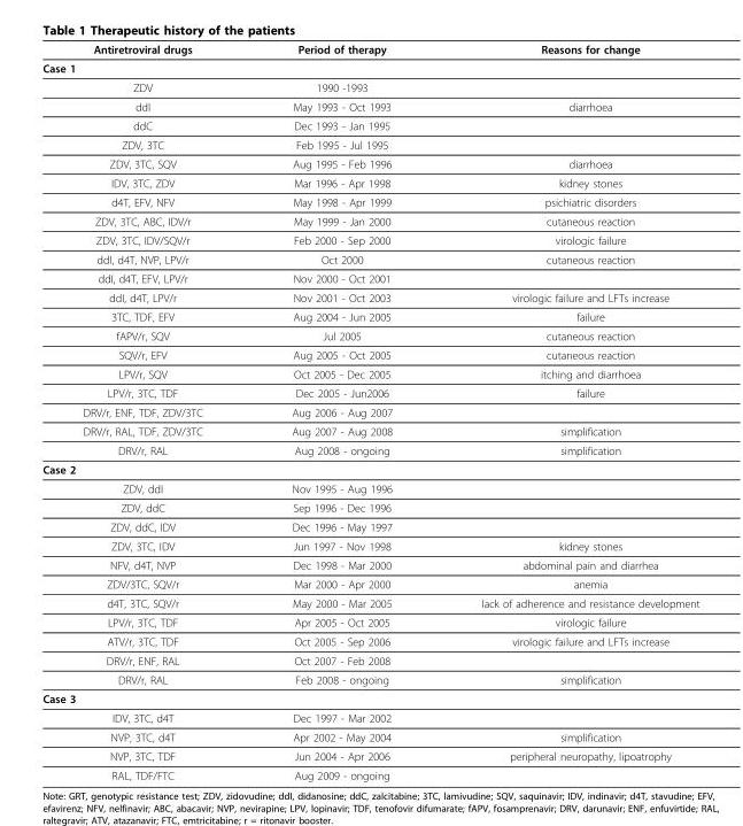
<table><thead><tr><td>Antiretroviral drugs</td><td>Period of therapy</td><td>Reasons for change</td></tr></thead><tbody><tr><td colspan="3">Case 1</td></tr><tr><td>ZDV</td><td>1990 -1993</td><td></td></tr><tr><td>ddI</td><td>May 1993 - Oct 1993</td><td>diarrhoea</td></tr><tr><td>ddC</td><td>Dec 1993 - Jan 1995</td><td></td></tr><tr><td>ZDV, 3TC</td><td>Feb 1995 - Jul 1995</td><td></td></tr><tr><td>ZDV, 3TC, SQV</td><td>Aug 1995 - Feb 1996</td><td>diarrhoea</td></tr><tr><td>IDV, 3TC, ZDV</td><td>Mar 1996 - Apr 1998</td><td>kidney stones</td></tr><tr><td>d4T, EFV, NFV</td><td>May 1998 - Apr 1999</td><td>psichiatric disorders</td></tr><tr><td>ZDV, 3TC, ABC, IDV/r</td><td>May 1999 - Jan 2000</td><td>cutaneous reaction</td></tr><tr><td>ZDV, 3TC, IDV/SQV/r</td><td>Feb 2000 - Sep 2000</td><td>virologic failure</td></tr><tr><td>ddI, d4T, NVP, LPV/r</td><td>Oct 2000</td><td>cutaneous reaction</td></tr><tr><td>ddI, d4T, EFV, LPV/r</td><td>Nov 2000 - Oct 2001</td><td></td></tr><tr><td>ddI, d4T, LPV/r</td><td>Nov 2001 - Oct 2003</td><td>virologic failure and LFTs increase</td></tr><tr><td>3TC, TDF, EFV</td><td>Aug 2004 - Jun 2005</td><td>failure</td></tr><tr><td>fAPV/r, SQV</td><td>Jul 2005</td><td>cutaneous reaction</td></tr><tr><td>SQV/r, EFV</td><td>Aug 2005 - Oct 2005</td><td>cutaneous reaction</td></tr><tr><td>LPV/r, SQV</td><td>Oct 2005 - Dec 2005</td><td>itching and diarrhoea</td></tr><tr><td>LPV/r, 3TC, TDF</td><td>Dec 2005 - Jun2006</td><td>failure</td></tr><tr><td>DRV/r, ENF, TDF, ZDV/3TC</td><td>Aug 2006 - Aug 2007</td><td></td></tr><tr><td>DRV/r, RAL, TDF, ZDV/3TC</td><td>Aug 2007 - Aug 2008</td><td>simplification</td></tr><tr><td>DRV/r, RAL</td><td>Aug 2008 - ongoing</td><td>simplification</td></tr><tr><td colspan="3">Case 2</td></tr><tr><td>ZDV, ddI</td><td>Nov 1995 - Aug 1996</td><td></td></tr><tr><td>ZDV, ddC</td><td>Sep 1996 - Dec 1996</td><td></td></tr><tr><td>ZDV, ddC, IDV</td><td>Dec 1996 - May 1997</td><td></td></tr><tr><td>ZDV, 3TC, IDV</td><td>Jun 1997 - Nov 1998</td><td>kidney stones</td></tr><tr><td>NFV, d4T, NVP</td><td>Dec 1998 - Mar 2000</td><td>abdominal pain and diarrhea</td></tr><tr><td>ZDV/3TC, SQV/r</td><td>Mar 2000 - Apr 2000</td><td>anemia</td></tr><tr><td>d4T, 3TC, SQV/r</td><td>May 2000 - Mar 2005</td><td>lack of adherence and resistance development</td></tr><tr><td>LPV/r, 3TC, TDF</td><td>Apr 2005 - Oct 2005</td><td>virologic failure</td></tr><tr><td>ATV/r, 3TC, TDF</td><td>Oct 2005 - Sep 2006</td><td>virologic failure and LFTs increase</td></tr><tr><td>DRV/r, ENF, RAL</td><td>Oct 2007 - Feb 2008</td><td></td></tr><tr><td>DRV/r, RAL</td><td>Feb 2008 - ongoing</td><td>simplification</td></tr><tr><td colspan="3">Case 3</td></tr><tr><td>IDV, 3TC, d4T</td><td>Dec 1997 - Mar 2002</td><td></td></tr><tr><td>NVP, 3TC, d4T</td><td>Apr 2002 - May 2004</td><td>simplification</td></tr><tr><td>NVP, 3TC, TDF</td><td>Jun 2004 - Apr 2006</td><td>peripheral neuropathy, lipoatrophy</td></tr><tr><td>RAL, TDF/FTC</td><td>Aug 2009 - ongoing</td><td></td></tr></tbody></table>